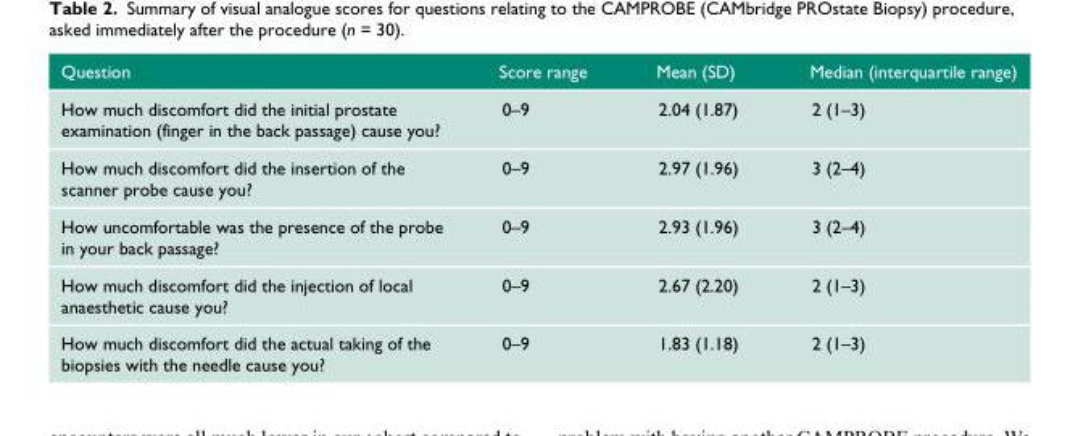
<table><thead><tr><td>Question</td><td>Score range</td><td>Mean (SD)</td><td>Median (interquartile range)</td></tr></thead><tbody><tr><td>How much discomfort did the initial prostate examination (finger in the back passage) cause you?</td><td>0–9</td><td>2.04 (1.87)</td><td>2 (1–3)</td></tr><tr><td>How much discomfort did the insertion of the scanner probe cause you?</td><td>0–9</td><td>2.97 (1.96)</td><td>3 (2–4)</td></tr><tr><td>How uncomfortable was the presence of the probe in your back passage?</td><td>0–9</td><td>2.93 (1.96)</td><td>3 (2–4)</td></tr><tr><td>How much discomfort did the injection of local anaesthetic cause you?</td><td>0–9</td><td>2.67 (2.20)</td><td>2 (1–3)</td></tr><tr><td>How much discomfort did the actual taking of the biopsies with the needle cause you?</td><td>0–9</td><td>1.83 (1.18)</td><td>2 (1–3)</td></tr></tbody></table>